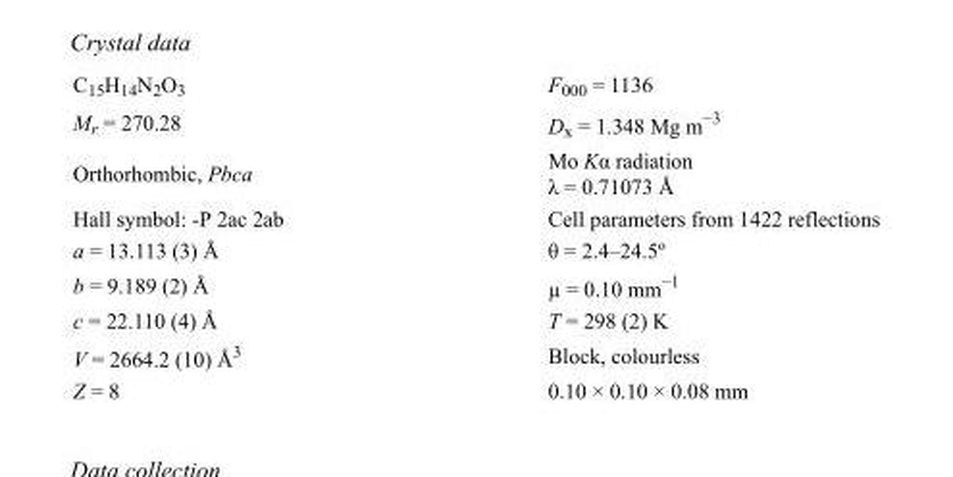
<table><tbody><tr><td>C<sub>15</sub>H<sub>14</sub>N<sub>2</sub>O<sub>3</sub></td><td>F000 = 1136</td></tr><tr><td>M<sub>r</sub> = 270.28</td><td>D<sub>x</sub> = 1.348 Mg m<sup>−3</sup></td></tr><tr><td>Orthorhombic, Pbca</td><td>Mo Kα radiation λ = 0.71073 Å</td></tr><tr><td>Hall symbol: -P 2ac 2ab</td><td>Cell parameters from 1422 reflections</td></tr><tr><td>a = 13.113 (3) Å</td><td>θ = 2.4–24.5º</td></tr><tr><td>b = 9.189 (2) Å</td><td>µ = 0.10 mm<sup>−1</sup></td></tr><tr><td>c = 22.110 (4) Å</td><td>T = 298 (2) K</td></tr><tr><td>V = 2664.2 (10) Å<sup>3</sup></td><td>Block, colourless</td></tr><tr><td>Z = 8</td><td>0.10 × 0.10 × 0.08 mm</td></tr></tbody></table>